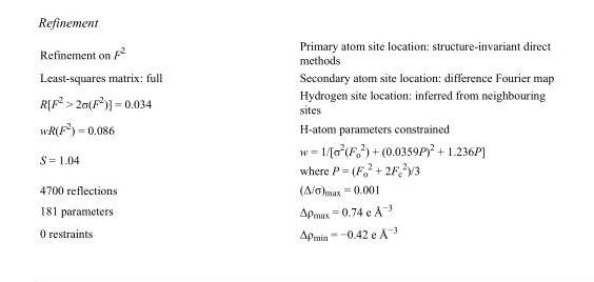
<table><tbody><tr><td>Refinement on F<sup>2</sup></td><td>Primary atom site location: structure-invariant direct methods</td></tr><tr><td>Least-squares matrix: full</td><td>Secondary atom site location: difference Fourier map</td></tr><tr><td>R[F<sup>2</sup> &gt; 2σ(F<sup>2</sup>)] = 0.034</td><td>Hydrogen site location: inferred from neighbouring sites</td></tr><tr><td>wR(F<sup>2</sup>) = 0.086</td><td>H-atom parameters constrained</td></tr><tr><td>S = 1.04</td><td>w = 1/[σ<sup>2</sup>(F<sub>o</sub> <sup>2</sup>) + (0.0359P)<sup>2</sup> + 1.236P] where P = (F<sub>o</sub> <sup>2</sup> + 2F<sub>c</sub> <sup>2</sup>)/3</td></tr><tr><td>4700 reflections</td><td>(Δ/σ)<sub>max</sub> = 0.001</td></tr><tr><td>181 parameters</td><td>Δρ<sub>max</sub> = 0.74 e Å<sup>−3</sup></td></tr><tr><td>0 restraints</td><td>Δρ<sub>min</sub> = −0.42 e Å<sup>−3</sup></td></tr></tbody></table>